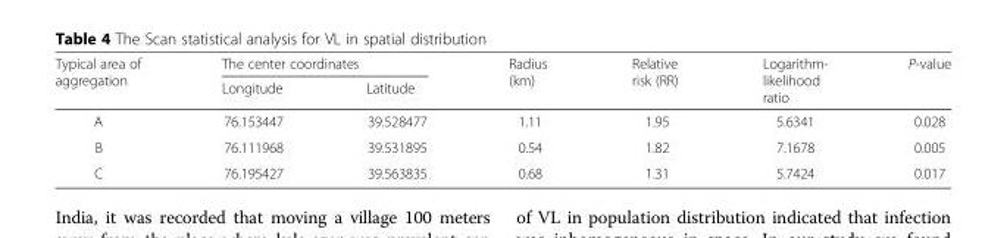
<table><thead><tr><td rowspan="2">Typical area of aggregation</td><td colspan="2">The center coordinates</td><td rowspan="2">Radius (km)</td><td rowspan="2">Relative risk (RR)</td><td rowspan="2">Logarithm- likelihood ratio</td><td rowspan="2">P-value</td></tr><tr><td>Longitude</td><td>Latitude</td></tr></thead><tbody><tr><td>A</td><td>76.153447</td><td>39.528477</td><td>1.11</td><td>1.95</td><td>5.6341</td><td>0.028</td></tr><tr><td>B</td><td>76.111968</td><td>39.531895</td><td>0.54</td><td>1.82</td><td>7.1678</td><td>0.005</td></tr><tr><td>C</td><td>76.195427</td><td>39.563835</td><td>0.68</td><td>1.31</td><td>5.7424</td><td>0.017</td></tr></tbody></table>